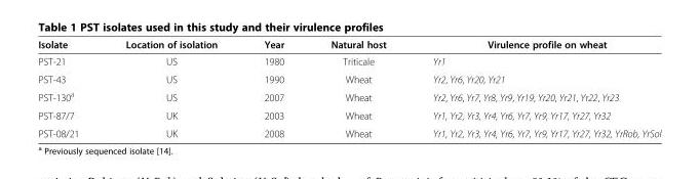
<table><thead><tr><td>Isolate</td><td>Location of isolation</td><td>Year</td><td>Natural host</td><td>Virulence profile on wheat</td></tr></thead><tbody><tr><td>PST-21</td><td>US</td><td>1980</td><td>Triticale</td><td>Yr1</td></tr><tr><td>PST-43</td><td>US</td><td>1990</td><td>Wheat</td><td>Yr2, Yr6, Yr20, Yr21</td></tr><tr><td>PST-130<sup>a</sup></td><td>US</td><td>2007</td><td>Wheat</td><td>Yr2, Yr6, Yr7, Yr8, Yr9, Yr19, Yr20, Yr21, Yr22, Yr23</td></tr><tr><td>PST-87/7</td><td>UK</td><td>2003</td><td>Wheat</td><td>Yr1, Yr2, Yr3, Yr4, Yr6, Yr7, Yr9, Yr17, Yr27, Yr32</td></tr><tr><td>PST-08/21</td><td>UK</td><td>2008</td><td>Wheat</td><td>Yr1, Yr2, Yr3, Yr4, Yr6, Yr7, Yr9, Yr17, Yr27, Yr32, YrRob, YrSol</td></tr></tbody></table>